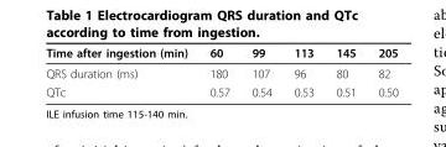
<table><thead><tr><td>Time after ingestion (min)</td><td>60</td><td>99</td><td>113</td><td>145</td><td>205</td></tr></thead><tbody><tr><td>QRS duration (ms)</td><td>180</td><td>107</td><td>96</td><td>80</td><td>82</td></tr><tr><td>QTc</td><td>0.57</td><td>0.54</td><td>0.53</td><td>0.51</td><td>0.50</td></tr></tbody></table>